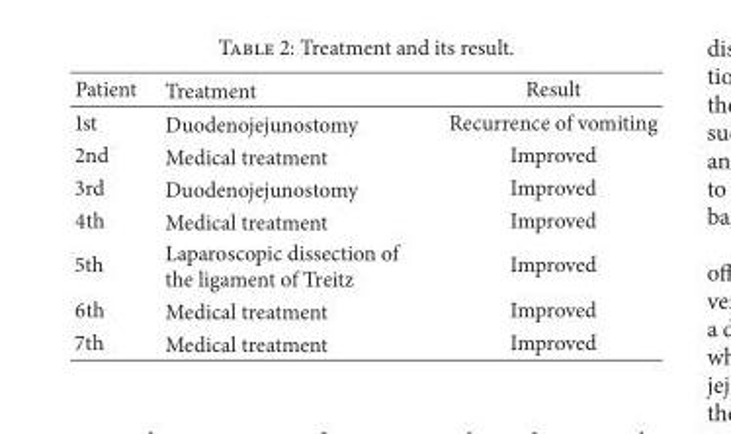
<table><thead><tr><td>Patient</td><td>Treatment</td><td>Result</td></tr></thead><tbody><tr><td>1st</td><td>Duodenojejunostomy</td><td>Recurrence of vomiting</td></tr><tr><td>2nd</td><td>Medical treatment</td><td>Improved</td></tr><tr><td>3rd</td><td>Duodenojejunostomy</td><td>Improved</td></tr><tr><td>4th</td><td>Medical treatment</td><td>Improved</td></tr><tr><td>5th</td><td>Laparoscopic dissection of the ligament of Treitz</td><td>Improved</td></tr><tr><td>6th</td><td>Medical treatment</td><td>Improved</td></tr><tr><td>7th</td><td>Medical treatment</td><td>Improved</td></tr></tbody></table>